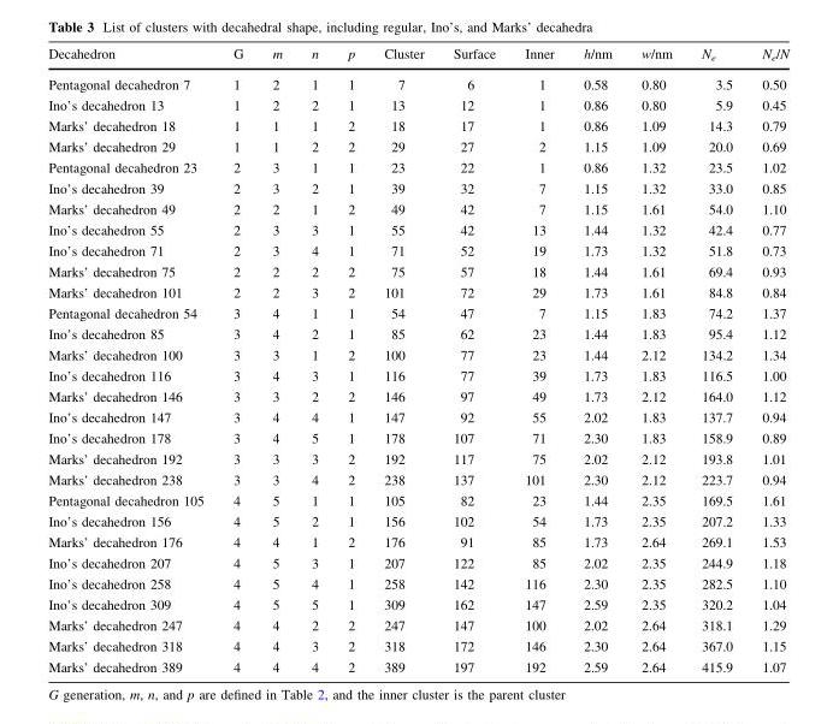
<table><thead><tr><td>Decahedron</td><td>G</td><td>m</td><td>n</td><td>p</td><td>Cluster</td><td>Surface</td><td>Inner</td><td>h/nm</td><td>w/nm</td><td>N<sub>e</sub></td><td>N<sub>e</sub>/N</td></tr></thead><tbody><tr><td>Pentagonal decahedron 7</td><td>1</td><td>2</td><td>1</td><td>1</td><td>7</td><td>6</td><td>1</td><td>0.58</td><td>0.80</td><td>3.5</td><td>0.50</td></tr><tr><td>Ino’s decahedron 13</td><td>1</td><td>2</td><td>2</td><td>1</td><td>13</td><td>12</td><td>1</td><td>0.86</td><td>0.80</td><td>5.9</td><td>0.45</td></tr><tr><td>Marks’ decahedron 18</td><td>1</td><td>1</td><td>1</td><td>2</td><td>18</td><td>17</td><td>1</td><td>0.86</td><td>1.09</td><td>14.3</td><td>0.79</td></tr><tr><td>Marks’ decahedron 29</td><td>1</td><td>1</td><td>2</td><td>2</td><td>29</td><td>27</td><td>2</td><td>1.15</td><td>1.09</td><td>20.0</td><td>0.69</td></tr><tr><td>Pentagonal decahedron 23</td><td>2</td><td>3</td><td>1</td><td>1</td><td>23</td><td>22</td><td>1</td><td>0.86</td><td>1.32</td><td>23.5</td><td>1.02</td></tr><tr><td>Ino’s decahedron 39</td><td>2</td><td>3</td><td>2</td><td>1</td><td>39</td><td>32</td><td>7</td><td>1.15</td><td>1.32</td><td>33.0</td><td>0.85</td></tr><tr><td>Marks’ decahedron 49</td><td>2</td><td>2</td><td>1</td><td>2</td><td>49</td><td>42</td><td>7</td><td>1.15</td><td>1.61</td><td>54.0</td><td>1.10</td></tr><tr><td>Ino’s decahedron 55</td><td>2</td><td>3</td><td>3</td><td>1</td><td>55</td><td>42</td><td>13</td><td>1.44</td><td>1.32</td><td>42.4</td><td>0.77</td></tr><tr><td>Ino’s decahedron 71</td><td>2</td><td>3</td><td>4</td><td>1</td><td>71</td><td>52</td><td>19</td><td>1.73</td><td>1.32</td><td>51.8</td><td>0.73</td></tr><tr><td>Marks’ decahedron 75</td><td>2</td><td>2</td><td>2</td><td>2</td><td>75</td><td>57</td><td>18</td><td>1.44</td><td>1.61</td><td>69.4</td><td>0.93</td></tr><tr><td>Marks’ decahedron 101</td><td>2</td><td>2</td><td>3</td><td>2</td><td>101</td><td>72</td><td>29</td><td>1.73</td><td>1.61</td><td>84.8</td><td>0.84</td></tr><tr><td>Pentagonal decahedron 54</td><td>3</td><td>4</td><td>1</td><td>1</td><td>54</td><td>47</td><td>7</td><td>1.15</td><td>1.83</td><td>74.2</td><td>1.37</td></tr><tr><td>Ino’s decahedron 85</td><td>3</td><td>4</td><td>2</td><td>1</td><td>85</td><td>62</td><td>23</td><td>1.44</td><td>1.83</td><td>95.4</td><td>1.12</td></tr><tr><td>Marks’ decahedron 100</td><td>3</td><td>3</td><td>1</td><td>2</td><td>100</td><td>77</td><td>23</td><td>1.44</td><td>2.12</td><td>134.2</td><td>1.34</td></tr><tr><td>Ino’s decahedron 116</td><td>3</td><td>4</td><td>3</td><td>1</td><td>116</td><td>77</td><td>39</td><td>1.73</td><td>1.83</td><td>116.5</td><td>1.00</td></tr><tr><td>Marks’ decahedron 146</td><td>3</td><td>3</td><td>2</td><td>2</td><td>146</td><td>97</td><td>49</td><td>1.73</td><td>2.12</td><td>164.0</td><td>1.12</td></tr><tr><td>Ino’s decahedron 147</td><td>3</td><td>4</td><td>4</td><td>1</td><td>147</td><td>92</td><td>55</td><td>2.02</td><td>1.83</td><td>137.7</td><td>0.94</td></tr><tr><td>Ino’s decahedron 178</td><td>3</td><td>4</td><td>5</td><td>1</td><td>178</td><td>107</td><td>71</td><td>2.30</td><td>1.83</td><td>158.9</td><td>0.89</td></tr><tr><td>Marks’ decahedron 192</td><td>3</td><td>3</td><td>3</td><td>2</td><td>192</td><td>117</td><td>75</td><td>2.02</td><td>2.12</td><td>193.8</td><td>1.01</td></tr><tr><td>Marks’ decahedron 238</td><td>3</td><td>3</td><td>4</td><td>2</td><td>238</td><td>137</td><td>101</td><td>2.30</td><td>2.12</td><td>223.7</td><td>0.94</td></tr><tr><td>Pentagonal decahedron 105</td><td>4</td><td>5</td><td>1</td><td>1</td><td>105</td><td>82</td><td>23</td><td>1.44</td><td>2.35</td><td>169.5</td><td>1.61</td></tr><tr><td>Ino’s decahedron 156</td><td>4</td><td>5</td><td>2</td><td>1</td><td>156</td><td>102</td><td>54</td><td>1.73</td><td>2.35</td><td>207.2</td><td>1.33</td></tr><tr><td>Marks’ decahedron 176</td><td>4</td><td>4</td><td>1</td><td>2</td><td>176</td><td>91</td><td>85</td><td>1.73</td><td>2.64</td><td>269.1</td><td>1.53</td></tr><tr><td>Ino’s decahedron 207</td><td>4</td><td>5</td><td>3</td><td>1</td><td>207</td><td>122</td><td>85</td><td>2.02</td><td>2.35</td><td>244.9</td><td>1.18</td></tr><tr><td>Ino’s decahedron 258</td><td>4</td><td>5</td><td>4</td><td>1</td><td>258</td><td>142</td><td>116</td><td>2.30</td><td>2.35</td><td>282.5</td><td>1.10</td></tr><tr><td>Ino’s decahedron 309</td><td>4</td><td>5</td><td>5</td><td>1</td><td>309</td><td>162</td><td>147</td><td>2.59</td><td>2.35</td><td>320.2</td><td>1.04</td></tr><tr><td>Marks’ decahedron 247</td><td>4</td><td>4</td><td>2</td><td>2</td><td>247</td><td>147</td><td>100</td><td>2.02</td><td>2.64</td><td>318.1</td><td>1.29</td></tr><tr><td>Marks’ decahedron 318</td><td>4</td><td>4</td><td>3</td><td>2</td><td>318</td><td>172</td><td>146</td><td>2.30</td><td>2.64</td><td>367.0</td><td>1.15</td></tr><tr><td>Marks’ decahedron 389</td><td>4</td><td>4</td><td>4</td><td>2</td><td>389</td><td>197</td><td>192</td><td>2.59</td><td>2.64</td><td>415.9</td><td>1.07</td></tr></tbody></table>